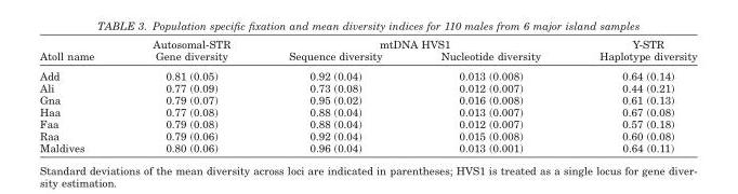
<table><thead><tr><td rowspan="2">Atoll name</td><td rowspan="2">Autosomal-STR Gene diversity</td><td colspan="2">mtDNA HVS1</td><td rowspan="2">Y-STR Haplotype diversity</td></tr><tr><td>Sequence diversity</td><td>Nucleotide diversity</td></tr></thead><tbody><tr><td>Add</td><td>0.81 (0.05)</td><td>0.92 (0.04)</td><td>0.013 (0.008)</td><td>0.64 (0.14)</td></tr><tr><td>Ali</td><td>0.77 (0.09)</td><td>0.73 (0.08)</td><td>0.012 (0.007)</td><td>0.44 (0.21)</td></tr><tr><td>Gna</td><td>0.79 (0.07)</td><td>0.95 (0.02)</td><td>0.016 (0.008)</td><td>0.61 (0.13)</td></tr><tr><td>Haa</td><td>0.77 (0.08)</td><td>0.88 (0.04)</td><td>0.013 (0.007)</td><td>0.67 (0.08)</td></tr><tr><td>Faa</td><td>0.79 (0.08)</td><td>0.88 (0.04)</td><td>0.012 (0.007)</td><td>0.57 (0.18)</td></tr><tr><td>Raa</td><td>0.79 (0.06)</td><td>0.92 (0.04)</td><td>0.015 (0.008)</td><td>0.60 (0.08)</td></tr><tr><td>Maldives</td><td>0.80 (0.06)</td><td>0.96 (0.04)</td><td>0.013 (0.001)</td><td>0.64 (0.11)</td></tr></tbody></table>